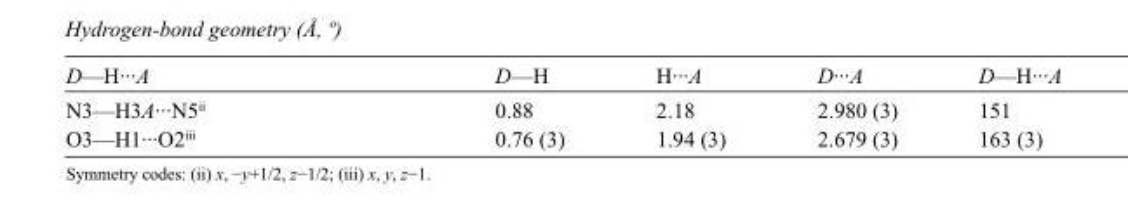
<table><tbody><tr><td>D—H···A</td><td>D—H</td><td>H···A</td><td>D···A</td><td>D—H···A</td></tr><tr><td>N3—H3A···N5<sup>ii</sup></td><td>0.88</td><td>2.18</td><td>2.980 (3)</td><td>151</td></tr><tr><td>O3—H1···O2<sup>iii</sup></td><td>0.76 (3)</td><td>1.94 (3)</td><td>2.679 (3)</td><td>163 (3)</td></tr></tbody></table>